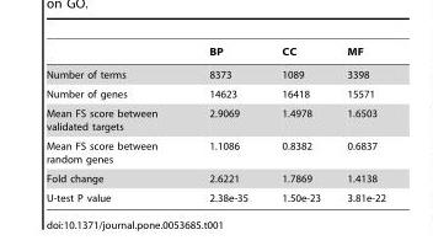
<table><thead><tr><td></td><td>BP</td><td>CC</td><td>MF</td></tr></thead><tbody><tr><td>Number of terms</td><td>8373</td><td>1089</td><td>3398</td></tr><tr><td>Number of genes</td><td>14623</td><td>16418</td><td>15571</td></tr><tr><td>Mean FS score between validated targets</td><td>2.9069</td><td>1.4978</td><td>1.6503</td></tr><tr><td>Mean FS score between random genes</td><td>1.1086</td><td>0.8382</td><td>0.6837</td></tr><tr><td>Fold change</td><td>2.6221</td><td>1.7869</td><td>1.4138</td></tr><tr><td>U-test P value</td><td>2.38e-35</td><td>1.50e-23</td><td>3.81e-22</td></tr></tbody></table>